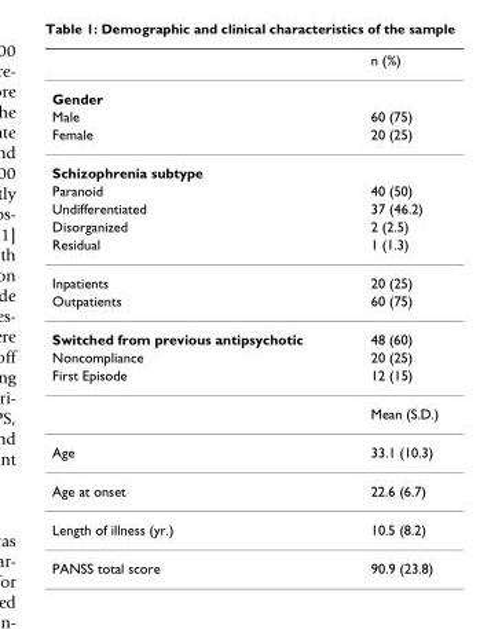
<table><thead><tr><td></td><td>n (%)</td></tr></thead><tbody><tr><td colspan="2">Gender</td></tr><tr><td>Male</td><td>60 (75)</td></tr><tr><td>Female</td><td>20 (25)</td></tr><tr><td colspan="2">Schizophrenia subtype</td></tr><tr><td>Paranoid</td><td>40 (50)</td></tr><tr><td>Undifferentiated</td><td>37 (46.2)</td></tr><tr><td>Disorganized</td><td>2 (2.5)</td></tr><tr><td>Residual</td><td>1 (1.3)</td></tr><tr><td>Inpatients</td><td>20 (25)</td></tr><tr><td>Outpatients</td><td>60 (75)</td></tr><tr><td>Switched from previous antipsychotic</td><td>48 (60)</td></tr><tr><td>Noncompliance</td><td>20 (25)</td></tr><tr><td rowspan="2">First Episode</td><td>12 (15)</td></tr><tr><td>Mean (S.D.)</td></tr><tr><td>Age</td><td>33.1 (10.3)</td></tr><tr><td>Age at onset</td><td>22.6 (6.7)</td></tr><tr><td>Length of illness (yr.)</td><td>10.5 (8.2)</td></tr><tr><td>PANSS total score</td><td>90.9 (23.8)</td></tr></tbody></table>